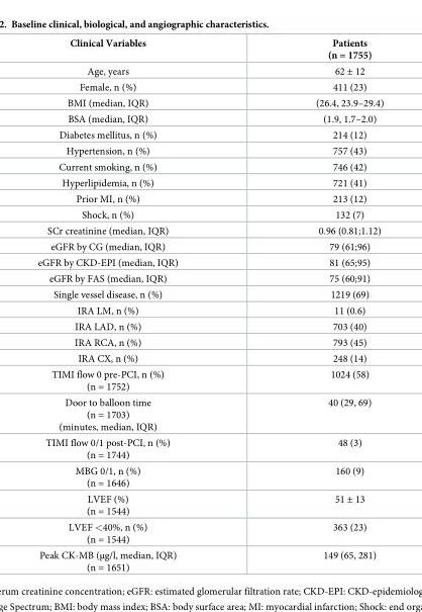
<table><thead><tr><td>Clinical Variables</td><td>Patients (n = 1755)</td></tr></thead><tbody><tr><td>Age, years</td><td>62 ± 12</td></tr><tr><td>Female, n (%)</td><td>411 (23)</td></tr><tr><td>BMI (median, IQR)</td><td>(26.4, 23.9–29.4)</td></tr><tr><td>BSA (median, IQR)</td><td>(1.9, 1.7–2.0)</td></tr><tr><td>Diabetes mellitus, n (%)</td><td>214 (12)</td></tr><tr><td>Hypertension, n (%)</td><td>757 (43)</td></tr><tr><td>Current smoking, n (%)</td><td>746 (42)</td></tr><tr><td>Hyperlipidemia, n (%)</td><td>721 (41)</td></tr><tr><td>Prior MI, n (%)</td><td>213 (12)</td></tr><tr><td>Shock, n (%)</td><td>132 (7)</td></tr><tr><td>SCr creatinine (median, IQR)</td><td>0.96 (0.81;1.12)</td></tr><tr><td>eGFR by CG (median, IQR)</td><td>79 (61;96)</td></tr><tr><td>eGFR by CKD-EPI (median, IQR)</td><td>81 (65;95)</td></tr><tr><td>eGFR by FAS (median, IQR)</td><td>75 (60;91)</td></tr><tr><td>Single vessel disease, n (%)</td><td>1219 (69)</td></tr><tr><td>IRA LM, n (%)</td><td>11 (0.6)</td></tr><tr><td>IRA LAD, n (%)</td><td>703 (40)</td></tr><tr><td>IRA RCA, n (%)</td><td>793 (45)</td></tr><tr><td>IRA CX, n (%)</td><td>248 (14)</td></tr><tr><td>TIMI flow 0 pre-PCI, n (%) (n = 1752)</td><td>1024 (58)</td></tr><tr><td>Door to balloon time (n = 1703) (minutes, median, IQR)</td><td>40 (29, 69)</td></tr><tr><td>TIMI flow 0/1 post-PCI, n (%) (n = 1744)</td><td>48 (3)</td></tr><tr><td>MBG 0/1, n (%) (n = 1646)</td><td>160 (9)</td></tr><tr><td>LVEF (%) (n = 1544)</td><td>51 ± 13</td></tr><tr><td>LVEF &lt;40%, n (%) (n = 1544)</td><td>363 (23)</td></tr><tr><td>Peak CK-MB (μg/l, median, IQR) (n = 1651)</td><td>149 (65, 281)</td></tr></tbody></table>